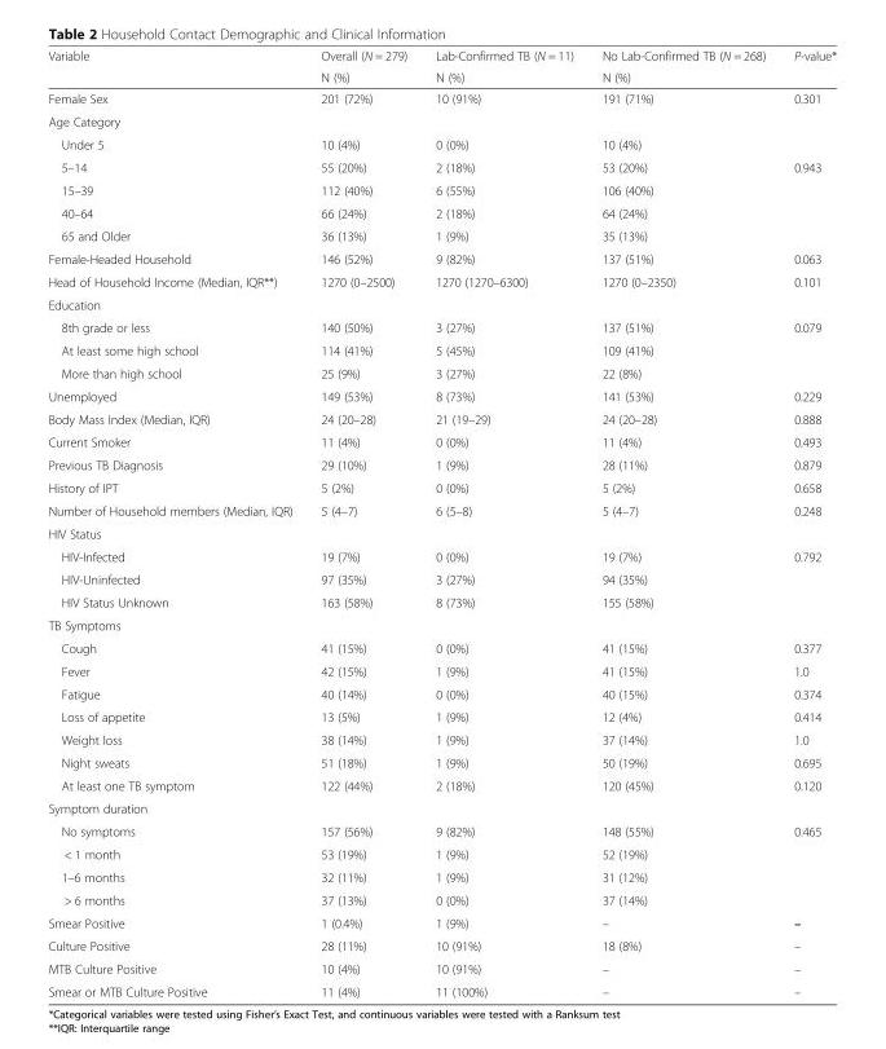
<table><thead><tr><td rowspan="2">Variable</td><td rowspan="2">Overall (N = 279) N (%)</td><td rowspan="2">Lab-Confirmed TB (N = 11) N (%)</td><td rowspan="2">No Lab-Confirmed TB (N = 268) N (%)</td><td rowspan="2">P-value*</td></tr><tr></tr></thead><tbody><tr><td>Female Sex</td><td>201 (72%)</td><td>10 (91%)</td><td>191 (71%)</td><td>0.301</td></tr><tr><td colspan="5">Age Category</td></tr><tr><td>Under 5</td><td>10 (4%)</td><td>0 (0%)</td><td>10 (4%)</td><td></td></tr><tr><td>5–14</td><td>55 (20%)</td><td>2 (18%)</td><td>53 (20%)</td><td rowspan="4">0.943</td></tr><tr><td>15–39</td><td>112 (40%)</td><td>6 (55%)</td><td>106 (40%)</td></tr><tr><td>40–64</td><td>66 (24%)</td><td>2 (18%)</td><td>64 (24%)</td></tr><tr><td>65 and Older</td><td>36 (13%)</td><td>1 (9%)</td><td>35 (13%)</td></tr><tr><td>Female-Headed Household</td><td>146 (52%)</td><td>9 (82%)</td><td>137 (51%)</td><td>0.063</td></tr><tr><td>Head of Household Income (Median, IQR**)</td><td>1270 (0–2500)</td><td>1270 (1270–6300)</td><td>1270 (0–2350)</td><td>0.101</td></tr><tr><td colspan="5">Education</td></tr><tr><td>8th grade or less</td><td>140 (50%)</td><td>3 (27%)</td><td>137 (51%)</td><td rowspan="3">0.079</td></tr><tr><td>At least some high school</td><td>114 (41%)</td><td>5 (45%)</td><td>109 (41%)</td></tr><tr><td>More than high school</td><td>25 (9%)</td><td>3 (27%)</td><td>22 (8%)</td></tr><tr><td>Unemployed</td><td>149 (53%)</td><td>8 (73%)</td><td>141 (53%)</td><td>0.229</td></tr><tr><td>Body Mass Index (Median, IQR)</td><td>24 (20–28)</td><td>21 (19–29)</td><td>24 (20–28)</td><td>0.888</td></tr><tr><td>Current Smoker</td><td>11 (4%)</td><td>0 (0%)</td><td>11 (4%)</td><td>0.493</td></tr><tr><td>Previous TB Diagnosis</td><td>29 (10%)</td><td>1 (9%)</td><td>28 (11%)</td><td>0.879</td></tr><tr><td>History of IPT</td><td>5 (2%)</td><td>0 (0%)</td><td>5 (2%)</td><td>0.658</td></tr><tr><td>Number of Household members (Median, IQR)</td><td>5 (4–7)</td><td>6 (5–8)</td><td>5 (4–7)</td><td>0.248</td></tr><tr><td colspan="5">HIV Status</td></tr><tr><td>HIV-Infected</td><td>19 (7%)</td><td>0 (0%)</td><td>19 (7%)</td><td rowspan="3">0.792</td></tr><tr><td>HIV-Uninfected</td><td>97 (35%)</td><td>3 (27%)</td><td>94 (35%)</td></tr><tr><td>HIV Status Unknown</td><td>163 (58%)</td><td>8 (73%)</td><td>155 (58%)</td></tr><tr><td colspan="5">TB Symptoms</td></tr><tr><td>Cough</td><td>41 (15%)</td><td>0 (0%)</td><td>41 (15%)</td><td>0.377</td></tr><tr><td>Fever</td><td>42 (15%)</td><td>1 (9%)</td><td>41 (15%)</td><td>1.0</td></tr><tr><td>Fatigue</td><td>40 (14%)</td><td>0 (0%)</td><td>40 (15%)</td><td>0.374</td></tr><tr><td>Loss of appetite</td><td>13 (5%)</td><td>1 (9%)</td><td>12 (4%)</td><td>0.414</td></tr><tr><td>Weight loss</td><td>38 (14%)</td><td>1 (9%)</td><td>37 (14%)</td><td>1.0</td></tr><tr><td>Night sweats</td><td>51 (18%)</td><td>1 (9%)</td><td>50 (19%)</td><td>0.695</td></tr><tr><td>At least one TB symptom</td><td>122 (44%)</td><td>2 (18%)</td><td>120 (45%)</td><td>0.120</td></tr><tr><td colspan="5">Symptom duration</td></tr><tr><td>No symptoms</td><td>157 (56%)</td><td>9 (82%)</td><td>148 (55%)</td><td rowspan="4">0.465</td></tr><tr><td>&lt; 1 month</td><td>53 (19%)</td><td>1 (9%)</td><td>52 (19%)</td></tr><tr><td>1–6 months</td><td>32 (11%)</td><td>1 (9%)</td><td>31 (12%)</td></tr><tr><td>&gt; 6 months</td><td>37 (13%)</td><td>0 (0%)</td><td>37 (14%)</td></tr><tr><td>Smear Positive</td><td>1 (0.4%)</td><td>1 (9%)</td><td>–</td><td>–</td></tr><tr><td>Culture Positive</td><td>28 (11%)</td><td>10 (91%)</td><td>18 (8%)</td><td>–</td></tr><tr><td>MTB Culture Positive</td><td>10 (4%)</td><td>10 (91%)</td><td>–</td><td>–</td></tr><tr><td>Smear or MTB Culture Positive</td><td>11 (4%)</td><td>11 (100%)</td><td>–</td><td>–</td></tr></tbody></table>